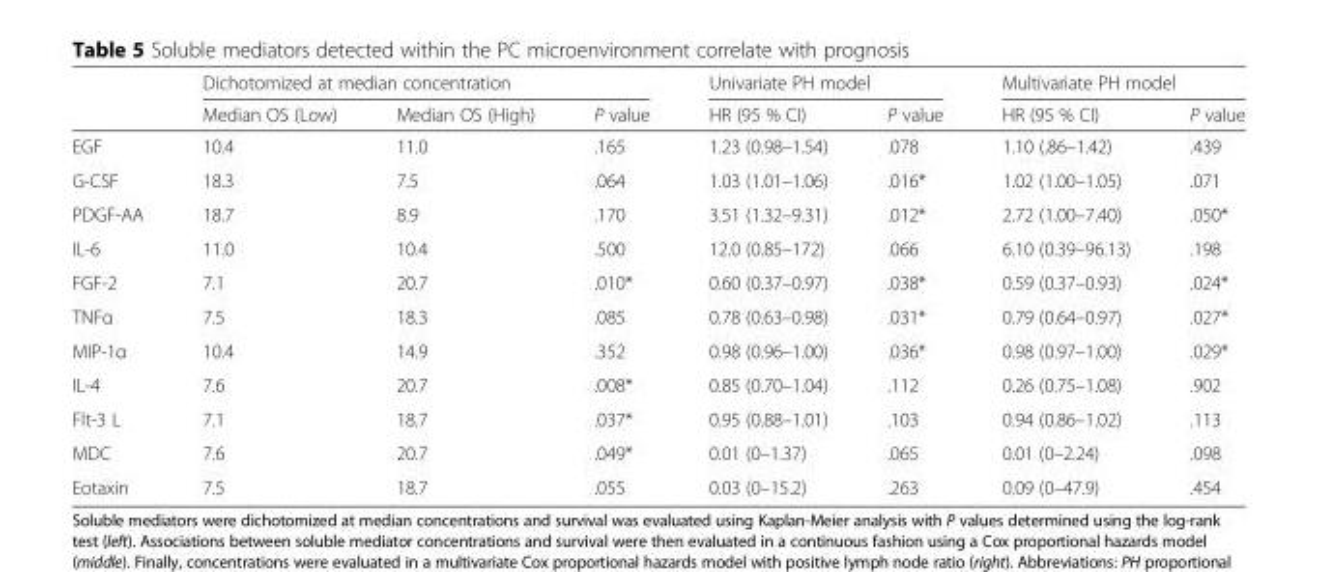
<table><thead><tr><td rowspan="2"></td><td colspan="3">Dichotomized at median concentration</td><td colspan="2">Univariate PH model</td><td colspan="2">Multivariate PH model</td></tr><tr><td>Median OS (Low)</td><td>Median OS (High)</td><td>P value</td><td>HR (95 % CI)</td><td>P value</td><td>HR (95 % CI)</td><td>P value</td></tr></thead><tbody><tr><td>EGF</td><td>10.4</td><td>11.0</td><td>.165</td><td>1.23 (0.98–1.54)</td><td>.078</td><td>1.10 (.86–1.42)</td><td>.439</td></tr><tr><td>G-CSF</td><td>18.3</td><td>7.5</td><td>.064</td><td>1.03 (1.01–1.06)</td><td>.016*</td><td>1.02 (1.00–1.05)</td><td>.071</td></tr><tr><td>PDGF-AA</td><td>18.7</td><td>8.9</td><td>.170</td><td>3.51 (1.32–9.31)</td><td>.012*</td><td>2.72 (1.00–7.40)</td><td>.050*</td></tr><tr><td>IL-6</td><td>11.0</td><td>10.4</td><td>.500</td><td>12.0 (0.85–172)</td><td>.066</td><td>6.10 (0.39–96.13)</td><td>.198</td></tr><tr><td>FGF-2</td><td>7.1</td><td>20.7</td><td>.010*</td><td>0.60 (0.37–0.97)</td><td>.038*</td><td>0.59 (0.37–0.93)</td><td>.024*</td></tr><tr><td>TNFα</td><td>7.5</td><td>18.3</td><td>.085</td><td>0.78 (0.63–0.98)</td><td>.031*</td><td>0.79 (0.64–0.97)</td><td>.027*</td></tr><tr><td>MIP-1α</td><td>10.4</td><td>14.9</td><td>.352</td><td>0.98 (0.96–1.00)</td><td>.036*</td><td>0.98 (0.97–1.00)</td><td>.029*</td></tr><tr><td>IL-4</td><td>7.6</td><td>20.7</td><td>.008*</td><td>0.85 (0.70–1.04)</td><td>.112</td><td>0.26 (0.75–1.08)</td><td>.902</td></tr><tr><td>Flt-3 L</td><td>7.1</td><td>18.7</td><td>.037*</td><td>0.95 (0.88–1.01)</td><td>.103</td><td>0.94 (0.86–1.02)</td><td>.113</td></tr><tr><td>MDC</td><td>7.6</td><td>20.7</td><td>.049*</td><td>0.01 (0–1.37)</td><td>.065</td><td>0.01 (0–2.24)</td><td>.098</td></tr><tr><td>Eotaxin</td><td>7.5</td><td>18.7</td><td>.055</td><td>0.03 (0–15.2)</td><td>.263</td><td>0.09 (0–47.9)</td><td>.454</td></tr></tbody></table>